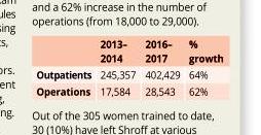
<table><thead><tr><td></td><td>2013– 2014</td><td>2016– 2017</td><td>% growth</td></tr></thead><tbody><tr><td>Outpatients</td><td>245,357</td><td>402,429</td><td>64%</td></tr><tr><td>Operations</td><td>17,584</td><td>28,543</td><td>62%</td></tr></tbody></table>